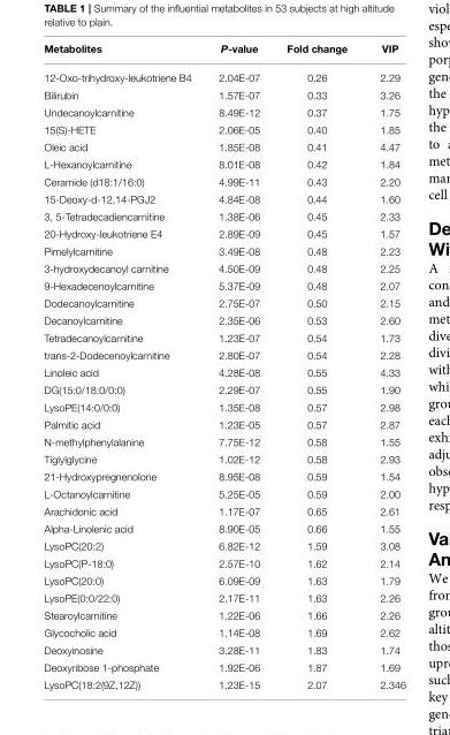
<table><thead><tr><td>Metabolites</td><td>P-value</td><td>Fold change</td><td>VIP</td></tr></thead><tbody><tr><td>12-Oxo-trihydroxy-leukotriene B4</td><td>2.04E-07</td><td>0.26</td><td>2.29</td></tr><tr><td>Bilirubin</td><td>1.57E-07</td><td>0.33</td><td>3.26</td></tr><tr><td>Undecanoylcarnitine</td><td>8.49E-12</td><td>0.37</td><td>1.75</td></tr><tr><td>15(S)-HETE</td><td>2.06E-05</td><td>0.40</td><td>1.85</td></tr><tr><td>Oleic acid</td><td>1.85E-08</td><td>0.41</td><td>4.47</td></tr><tr><td>L-Hexanoylcarnitine</td><td>8.01E-08</td><td>0.42</td><td>1.84</td></tr><tr><td>Ceramide (d18:1/16:0)</td><td>4.99E-11</td><td>0.43</td><td>2.20</td></tr><tr><td>15-Deoxy-d-12,14-PGJ2</td><td>4.84E-08</td><td>0.44</td><td>1.60</td></tr><tr><td>3, 5-Tetradecadiencarnitine</td><td>1.38E-06</td><td>0.45</td><td>2.33</td></tr><tr><td>20-Hydroxy-leukotriene E4</td><td>2.89E-09</td><td>0.45</td><td>1.57</td></tr><tr><td>Pimelylcarnitine</td><td>3.49E-08</td><td>0.48</td><td>2.23</td></tr><tr><td>3-hydroxydecanoyl carnitine</td><td>4.50E-09</td><td>0.48</td><td>2.25</td></tr><tr><td>9-Hexadecenoylcarnitine</td><td>5.37E-09</td><td>0.48</td><td>2.07</td></tr><tr><td>Dodecanoylcarnitine</td><td>2.75E-07</td><td>0.50</td><td>2.15</td></tr><tr><td>Decanoylcarnitine</td><td>2.35E-06</td><td>0.53</td><td>2.60</td></tr><tr><td>Tetradecanoylcarnitine</td><td>1.23E-07</td><td>0.54</td><td>1.73</td></tr><tr><td>trans-2-Dodecenoylcarnitine</td><td>2.80E-07</td><td>0.54</td><td>2.28</td></tr><tr><td>Linoleic acid</td><td>4.28E-08</td><td>0.55</td><td>4.33</td></tr><tr><td>DG(15:0/18:0/0:0)</td><td>2.29E-07</td><td>0.55</td><td>1.90</td></tr><tr><td>LysoPE(14:0/0:0)</td><td>1.35E-08</td><td>0.57</td><td>2.98</td></tr><tr><td>Palmitic acid</td><td>1.23E-05</td><td>0.57</td><td>2.87</td></tr><tr><td>N-methylphenylalanine</td><td>7.75E-12</td><td>0.58</td><td>1.55</td></tr><tr><td>Tiglylglycine</td><td>1.02E-12</td><td>0.58</td><td>2.93</td></tr><tr><td>21-Hydroxypregnenolone</td><td>8.95E-08</td><td>0.59</td><td>1.54</td></tr><tr><td>L-Octanoylcarnitine</td><td>5.25E-05</td><td>0.59</td><td>2.00</td></tr><tr><td>Arachidonic acid</td><td>1.17E-07</td><td>0.65</td><td>2.61</td></tr><tr><td>Alpha-Linolenic acid</td><td>8.90E-05</td><td>0.66</td><td>1.55</td></tr><tr><td>LysoPC(20:2)</td><td>6.82E-12</td><td>1.59</td><td>3.08</td></tr><tr><td>LysoPC(P-18:0)</td><td>2.57E-10</td><td>1.62</td><td>2.14</td></tr><tr><td>LysoPC(20:0)</td><td>6.09E-09</td><td>1.63</td><td>1.79</td></tr><tr><td>LysoPE(0:0/22:0)</td><td>2.17E-11</td><td>1.63</td><td>2.26</td></tr><tr><td>Stearoylcarnitine</td><td>1.22E-06</td><td>1.66</td><td>2.26</td></tr><tr><td>Glycocholic acid</td><td>1.14E-08</td><td>1.69</td><td>2.62</td></tr><tr><td>Deoxyinosine</td><td>3.28E-11</td><td>1.83</td><td>1.74</td></tr><tr><td>Deoxyribose 1-phosphate</td><td>1.92E-06</td><td>1.87</td><td>1.69</td></tr><tr><td>LysoPC(18:2(9Z,12Z))</td><td>1.23E-15</td><td>2.07</td><td>2.346</td></tr></tbody></table>